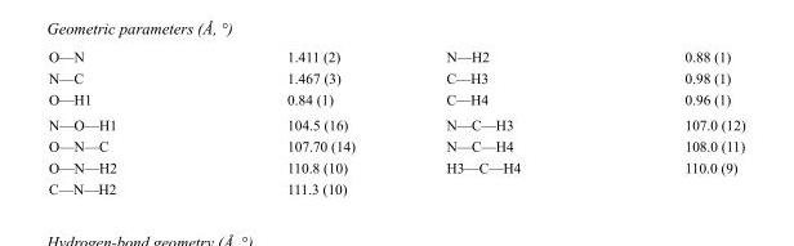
<table><tbody><tr><td>O—N</td><td>1.411 (2)</td><td>N—H2</td><td>0.88 (1)</td></tr><tr><td>N—C</td><td>1.467 (3)</td><td>C—H3</td><td>0.98 (1)</td></tr><tr><td>O—H1</td><td>0.84 (1)</td><td>C—H4</td><td>0.96 (1)</td></tr><tr><td>N—O—H1</td><td>104.5 (16)</td><td>N—C—H3</td><td>107.0 (12)</td></tr><tr><td>O—N—C</td><td>107.70 (14)</td><td>N—C—H4</td><td>108.0 (11)</td></tr><tr><td>O—N—H2</td><td>110.8 (10)</td><td>H3—C—H4</td><td>110.0 (9)</td></tr><tr><td>C—N—H2</td><td>111.3 (10)</td><td></td><td></td></tr></tbody></table>